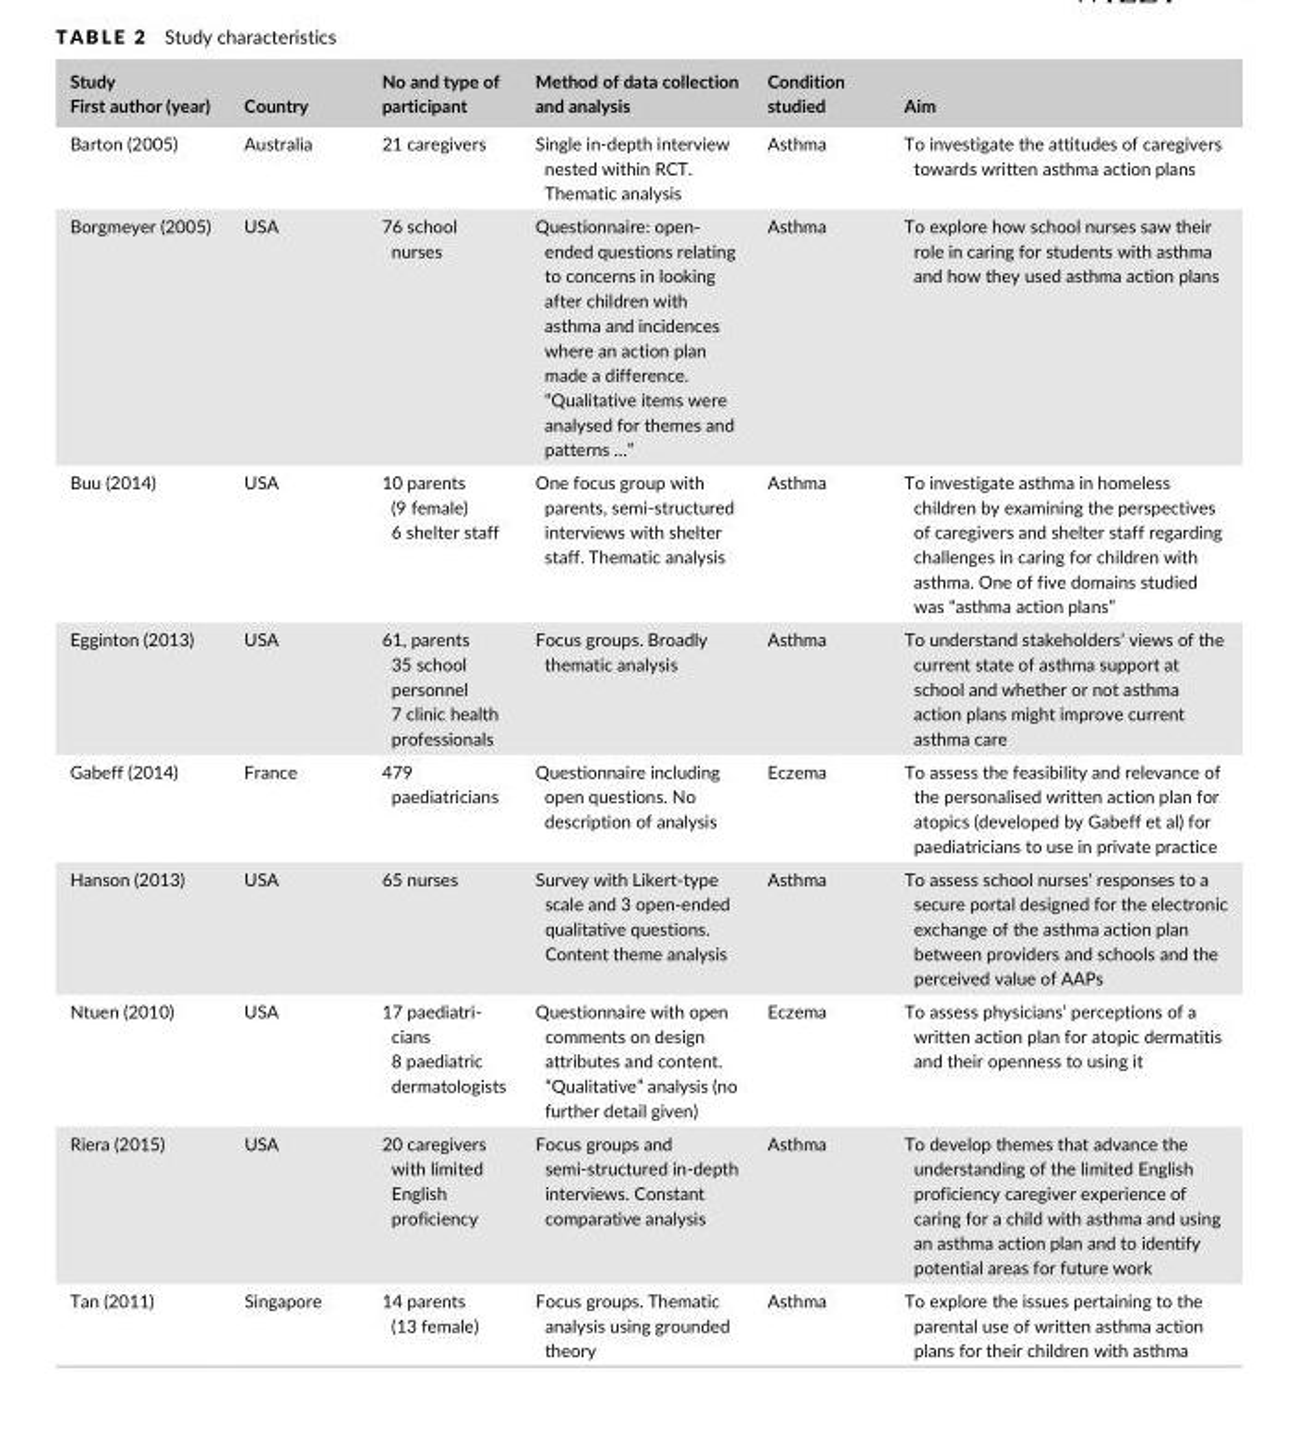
<table><thead><tr><td>Study First author (year)</td><td>Country</td><td>No and type of participant</td><td>Method of data collection and analysis</td><td>Condition studied</td><td>Aim</td></tr></thead><tbody><tr><td>Barton (2005)</td><td>Australia</td><td>21 caregivers</td><td>Single in- depth interview nested within RCT. Thematic analysis</td><td>Asthma</td><td>To investigate the attitudes of caregivers towards written asthma action plans</td></tr><tr><td>Borgmeyer (2005)</td><td>USA</td><td>76 school nurses</td><td>Questionnaire: open- ended questions relating to concerns in looking after children with asthma and incidences where an action plan made a difference. “Qualitative items were analysed for themes and patterns …”</td><td>Asthma</td><td>To explore how school nurses saw their role in caring for students with asthma and how they used asthma action plans</td></tr><tr><td>Buu (2014)</td><td>USA</td><td>10 parents (9 female) 6 shelter staff</td><td>One focus group with parents, semi- structured interviews with shelter staff. Thematic analysis</td><td>Asthma</td><td>To investigate asthma in homeless children by examining the perspectives of caregivers and shelter staff regarding challenges in caring for children with asthma. One of five domains studied was “asthma action plans”</td></tr><tr><td>Egginton (2013)</td><td>USA</td><td>61, parents 35 school personnel 7 clinic health professionals</td><td>Focus groups. Broadly thematic analysis</td><td>Asthma</td><td>To understand stakeholders’ views of the current state of asthma support at school and whether or not asthma action plans might improve current asthma care</td></tr><tr><td>Gabeff (2014)</td><td>France</td><td>479 paediatricians</td><td>Questionnaire including open questions. No description of analysis</td><td>Eczema</td><td>To assess the feasibility and relevance of the personalised written action plan for atopics (developed by Gabeff et al) for paediatricians to use in private practice</td></tr><tr><td>Hanson (2013)</td><td>USA</td><td>65 nurses</td><td>Survey with Likert- type scale and 3 open- ended qualitative questions. Content theme analysis</td><td>Asthma</td><td>To assess school nurses’ responses to a secure portal designed for the electronic exchange of the asthma action plan between providers and schools and the perceived value of AAPs</td></tr><tr><td>Ntuen (2010)</td><td>USA</td><td>17 paediatri- cians 8 paediatric dermatologists</td><td>Questionnaire with open comments on design attributes and content. “Qualitative” analysis (no further detail given)</td><td>Eczema</td><td>To assess physicians’ perceptions of a written action plan for atopic dermatitis and their openness to using it</td></tr><tr><td>Riera (2015)</td><td>USA</td><td>20 caregivers with limited English proficiency</td><td>Focus groups and semi- structured in- depth interviews. Constant comparative analysis</td><td>Asthma</td><td>To develop themes that advance the understanding of the limited English proficiency caregiver experience of caring for a child with asthma and using an asthma action plan and to identify potential areas for future work</td></tr><tr><td>Tan (2011)</td><td>Singapore</td><td>14 parents (13 female)</td><td>Focus groups. Thematic analysis using grounded theory</td><td>Asthma</td><td>To explore the issues pertaining to the parental use of written asthma action plans for their children with asthma</td></tr></tbody></table>